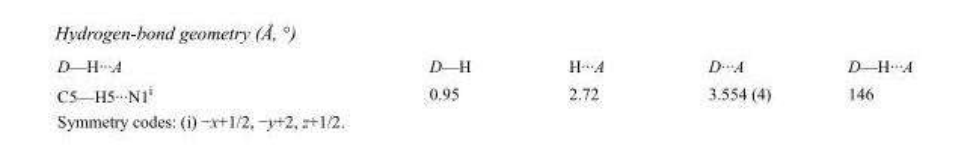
<table><tbody><tr><td>D—H···A</td><td>D—H</td><td>H···A</td><td>D···A</td><td>D—H···A</td></tr><tr><td>C5—H5···N1<sup>i</sup></td><td>0.95</td><td>2.72</td><td>3.554 (4)</td><td>146</td></tr></tbody></table>